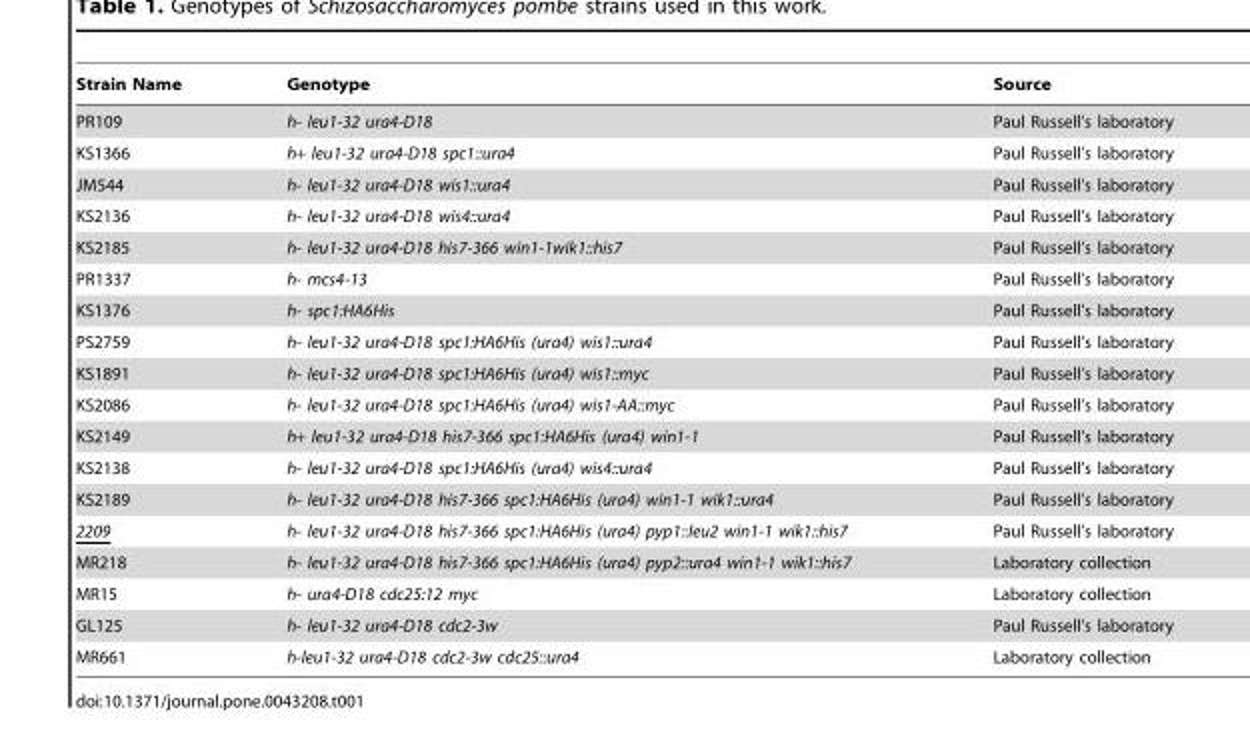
<table><thead><tr><td>Strain Name</td><td>Genotype</td><td>Source</td></tr></thead><tbody><tr><td>PR109</td><td>h- leu1-32 ura4-D18</td><td>Paul Russell’s laboratory</td></tr><tr><td>KS1366</td><td>h+ leu1-32 ura4-D18 spc1::ura4</td><td>Paul Russell’s laboratory</td></tr><tr><td>JM544</td><td>h- leu1-32 ura4-D18 wis1::ura4</td><td>Paul Russell’s laboratory</td></tr><tr><td>KS2136</td><td>h- leu1-32 ura4-D18 wis4::ura4</td><td>Paul Russell’s laboratory</td></tr><tr><td>KS2185</td><td>h- leu1-32 ura4-D18 his7-366 win1-1wik1::his7</td><td>Paul Russell’s laboratory</td></tr><tr><td>PR1337</td><td>h- mcs4-13</td><td>Paul Russell’s laboratory</td></tr><tr><td>KS1376</td><td>h- spc1:HA6His</td><td>Paul Russell’s laboratory</td></tr><tr><td>PS2759</td><td>h- leu1-32 ura4-D18 spc1:HA6His (ura4) wis1::ura4</td><td>Paul Russell’s laboratory</td></tr><tr><td>KS1891</td><td>h- leu1-32 ura4-D18 spc1:HA6His (ura4) wis1::myc</td><td>Paul Russell’s laboratory</td></tr><tr><td>KS2086</td><td>h- leu1-32 ura4-D18 spc1:HA6His (ura4) wis1-AA::myc</td><td>Paul Russell’s laboratory</td></tr><tr><td>KS2149</td><td>h+ leu1-32 ura4-D18 his7-366 spc1:HA6His (ura4) win1-1</td><td>Paul Russell’s laboratory</td></tr><tr><td>KS2138</td><td>h- leu1-32 ura4-D18 spc1:HA6His (ura4) wis4::ura4</td><td>Paul Russell’s laboratory</td></tr><tr><td>KS2189</td><td>h- leu1-32 ura4-D18 his7-366 spc1:HA6His (ura4) win1-1 wik1::ura4</td><td>Paul Russell’s laboratory</td></tr><tr><td>2209</td><td>h- leu1-32 ura4-D18 his7-366 spc1:HA6His (ura4) pyp1::leu2 win1-1 wik1::his7</td><td>Paul Russell’s laboratory</td></tr><tr><td>MR218</td><td>h- leu1-32 ura4-D18 his7-366 spc1:HA6His (ura4) pyp2::ura4 win1-1 wik1::his7</td><td>Laboratory collection</td></tr><tr><td>MR15</td><td>h- ura4-D18 cdc25:12 myc</td><td>Laboratory collection</td></tr><tr><td>GL125</td><td>h- leu1-32 ura4-D18 cdc2-3w</td><td>Paul Russell’s laboratory</td></tr><tr><td>MR661</td><td>h-leu1-32 ura4-D18 cdc2-3w cdc25::ura4</td><td>Laboratory collection</td></tr></tbody></table>